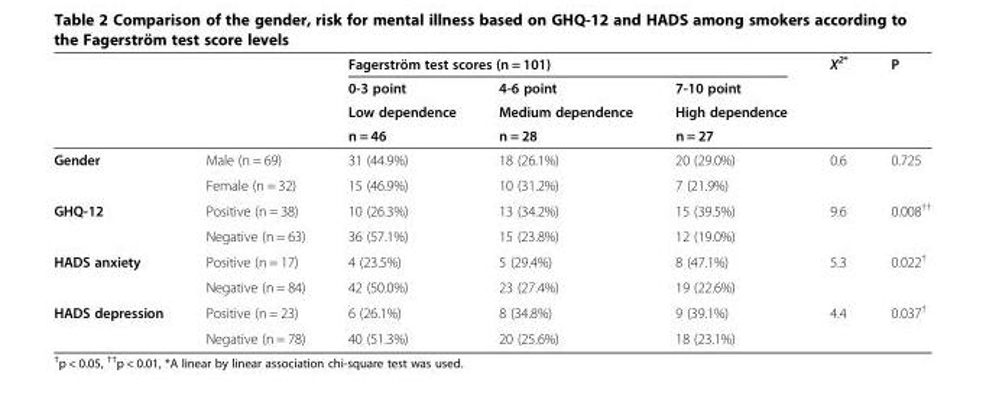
<table><thead><tr><td rowspan="4"></td><td rowspan="4"></td><td colspan="3">Fagerström test scores (n = 101)</td><td rowspan="4">X<sup>2*</sup></td><td rowspan="4">P</td></tr><tr><td rowspan="3">0-3 point Low dependence n = 46</td><td rowspan="3">4-6 point Medium dependence n = 28</td><td rowspan="3">7-10 point High dependence n = 27</td></tr><tr></tr><tr></tr></thead><tbody><tr><td rowspan="2">Gender</td><td>Male (n = 69)</td><td>31 (44.9%)</td><td>18 (26.1%)</td><td>20 (29.0%)</td><td rowspan="2">0.6</td><td rowspan="2">0.725</td></tr><tr><td>Female (n = 32)</td><td>15 (46.9%)</td><td>10 (31.2%)</td><td>7 (21.9%)</td></tr><tr><td rowspan="2">GHQ-12</td><td>Positive (n = 38)</td><td>10 (26.3%)</td><td>13 (34.2%)</td><td>15 (39.5%)</td><td rowspan="2">9.6</td><td rowspan="2">0.008<sup>††</sup></td></tr><tr><td>Negative (n = 63)</td><td>36 (57.1%)</td><td>15 (23.8%)</td><td>12 (19.0%)</td></tr><tr><td rowspan="2">HADS anxiety</td><td>Positive (n = 17)</td><td>4 (23.5%)</td><td>5 (29.4%)</td><td>8 (47.1%)</td><td rowspan="2">5.3</td><td rowspan="2">0.022<sup>†</sup></td></tr><tr><td>Negative (n = 84)</td><td>42 (50.0%)</td><td>23 (27.4%)</td><td>19 (22.6%)</td></tr><tr><td rowspan="2">HADS depression</td><td>Positive (n = 23)</td><td>6 (26.1%)</td><td>8 (34.8%)</td><td>9 (39.1%)</td><td rowspan="2">4.4</td><td rowspan="2">0.037<sup>†</sup></td></tr><tr><td>Negative (n = 78)</td><td>40 (51.3%)</td><td>20 (25.6%)</td><td>18 (23.1%)</td></tr></tbody></table>